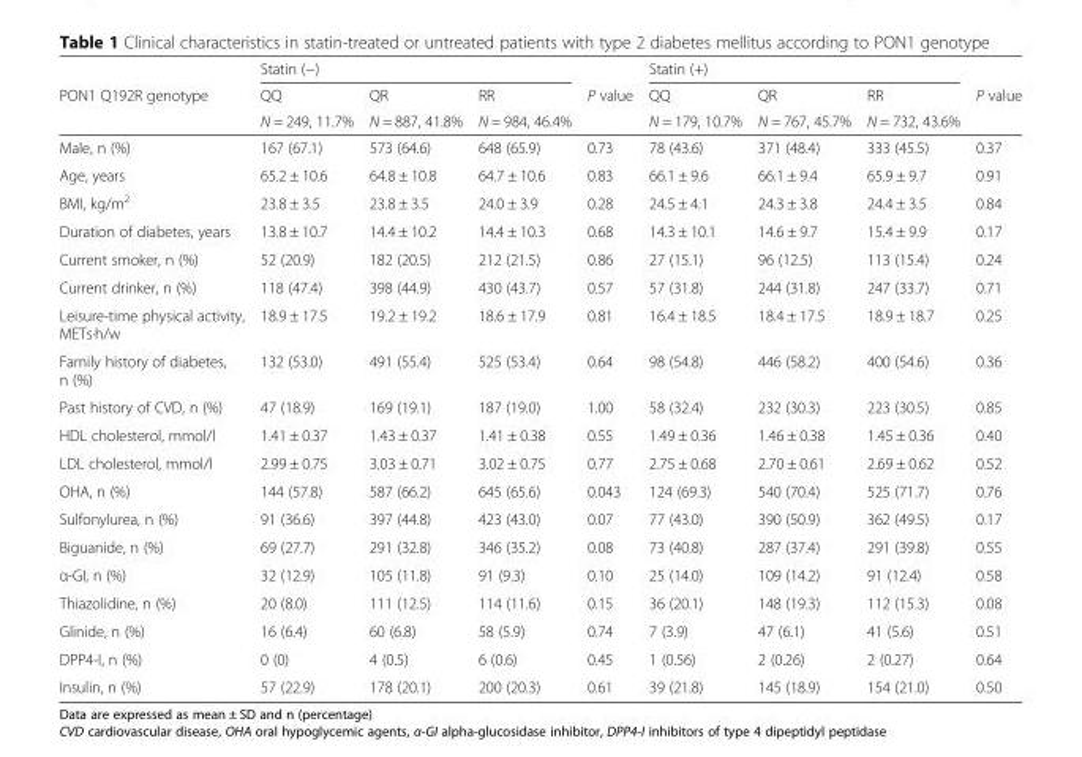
<table><thead><tr><td rowspan="3">PON1 Q192R genotype</td><td colspan="3">Statin (−)</td><td rowspan="3">P value</td><td colspan="3">Statin (+)</td><td rowspan="3">P value</td></tr><tr><td rowspan="2">QQ N = 249, 11.7%</td><td rowspan="2">QR N = 887, 41.8%</td><td rowspan="2">RR N = 984, 46.4%</td><td rowspan="2">QQ N = 179, 10.7%</td><td rowspan="2">QR N = 767, 45.7%</td><td rowspan="2">RR N = 732, 43.6%</td></tr><tr></tr></thead><tbody><tr><td>Male, n (%)</td><td>167 (67.1)</td><td>573 (64.6)</td><td>648 (65.9)</td><td>0.73</td><td>78 (43.6)</td><td>371 (48.4)</td><td>333 (45.5)</td><td>0.37</td></tr><tr><td>Age, years</td><td>65.2 ± 10.6</td><td>64.8 ± 10.8</td><td>64.7 ± 10.6</td><td>0.83</td><td>66.1 ± 9.6</td><td>66.1 ± 9.4</td><td>65.9 ± 9.7</td><td>0.91</td></tr><tr><td>BMI, kg/m<sup>2</sup></td><td>23.8 ± 3.5</td><td>23.8 ± 3.5</td><td>24.0 ± 3.9</td><td>0.28</td><td>24.5 ± 4.1</td><td>24.3 ± 3.8</td><td>24.4 ± 3.5</td><td>0.84</td></tr><tr><td>Duration of diabetes, years</td><td>13.8 ± 10.7</td><td>14.4 ± 10.2</td><td>14.4 ± 10.3</td><td>0.68</td><td>14.3 ± 10.1</td><td>14.6 ± 9.7</td><td>15.4 ± 9.9</td><td>0.17</td></tr><tr><td>Current smoker, n (%)</td><td>52 (20.9)</td><td>182 (20.5)</td><td>212 (21.5)</td><td>0.86</td><td>27 (15.1)</td><td>96 (12.5)</td><td>113 (15.4)</td><td>0.24</td></tr><tr><td>Current drinker, n (%)</td><td>118 (47.4)</td><td>398 (44.9)</td><td>430 (43.7)</td><td>0.57</td><td>57 (31.8)</td><td>244 (31.8)</td><td>247 (33.7)</td><td>0.71</td></tr><tr><td>Leisure-time physical activity, METs·h/w</td><td>18.9 ± 17.5</td><td>19.2 ± 19.2</td><td>18.6 ± 17.9</td><td>0.81</td><td>16.4 ± 18.5</td><td>18.4 ± 17.5</td><td>18.9 ± 18.7</td><td>0.25</td></tr><tr><td>Family history of diabetes, n (%)</td><td>132 (53.0)</td><td>491 (55.4)</td><td>525 (53.4)</td><td>0.64</td><td>98 (54.8)</td><td>446 (58.2)</td><td>400 (54.6)</td><td>0.36</td></tr><tr><td>Past history of CVD, n (%)</td><td>47 (18.9)</td><td>169 (19.1)</td><td>187 (19.0)</td><td>1.00</td><td>58 (32.4)</td><td>232 (30.3)</td><td>223 (30.5)</td><td>0.85</td></tr><tr><td>HDL cholesterol, mmol/l</td><td>1.41 ± 0.37</td><td>1.43 ± 0.37</td><td>1.41 ± 0.38</td><td>0.55</td><td>1.49 ± 0.36</td><td>1.46 ± 0.38</td><td>1.45 ± 0.36</td><td>0.40</td></tr><tr><td>LDL cholesterol, mmol/l</td><td>2.99 ± 0.75</td><td>3.03 ± 0.71</td><td>3.02 ± 0.75</td><td>0.77</td><td>2.75 ± 0.68</td><td>2.70 ± 0.61</td><td>2.69 ± 0.62</td><td>0.52</td></tr><tr><td>OHA, n (%)</td><td>144 (57.8)</td><td>587 (66.2)</td><td>645 (65.6)</td><td>0.043</td><td>124 (69.3)</td><td>540 (70.4)</td><td>525 (71.7)</td><td>0.76</td></tr><tr><td>Sulfonylurea, n (%)</td><td>91 (36.6)</td><td>397 (44.8)</td><td>423 (43.0)</td><td>0.07</td><td>77 (43.0)</td><td>390 (50.9)</td><td>362 (49.5)</td><td>0.17</td></tr><tr><td>Biguanide, n (%)</td><td>69 (27.7)</td><td>291 (32.8)</td><td>346 (35.2)</td><td>0.08</td><td>73 (40.8)</td><td>287 (37.4)</td><td>291 (39.8)</td><td>0.55</td></tr><tr><td>α-GI, n (%)</td><td>32 (12.9)</td><td>105 (11.8)</td><td>91 (9.3)</td><td>0.10</td><td>25 (14.0)</td><td>109 (14.2)</td><td>91 (12.4)</td><td>0.58</td></tr><tr><td>Thiazolidine, n (%)</td><td>20 (8.0)</td><td>111 (12.5)</td><td>114 (11.6)</td><td>0.15</td><td>36 (20.1)</td><td>148 (19.3)</td><td>112 (15.3)</td><td>0.08</td></tr><tr><td>Glinide, n (%)</td><td>16 (6.4)</td><td>60 (6.8)</td><td>58 (5.9)</td><td>0.74</td><td>7 (3.9)</td><td>47 (6.1)</td><td>41 (5.6)</td><td>0.51</td></tr><tr><td>DPP4-I, n (%)</td><td>0 (0)</td><td>4 (0.5)</td><td>6 (0.6)</td><td>0.45</td><td>1 (0.56)</td><td>2 (0.26)</td><td>2 (0.27)</td><td>0.64</td></tr><tr><td>Insulin, n (%)</td><td>57 (22.9)</td><td>178 (20.1)</td><td>200 (20.3)</td><td>0.61</td><td>39 (21.8)</td><td>145 (18.9)</td><td>154 (21.0)</td><td>0.50</td></tr></tbody></table>